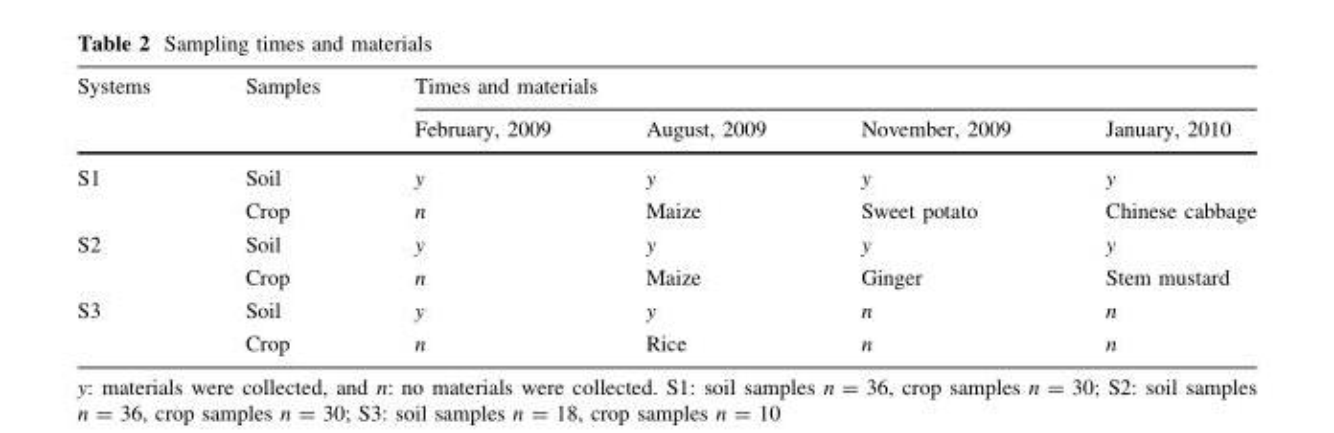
<table><thead><tr><td rowspan="2">Systems</td><td rowspan="2">Samples</td><td colspan="4">Times and materials</td></tr><tr><td>February, 2009</td><td>August, 2009</td><td>November, 2009</td><td>January, 2010</td></tr></thead><tbody><tr><td rowspan="2">S1</td><td>Soil</td><td>y</td><td>y</td><td>y</td><td>y</td></tr><tr><td>Crop</td><td>n</td><td>Maize</td><td>Sweet potato</td><td>Chinese cabbage</td></tr><tr><td rowspan="2">S2</td><td>Soil</td><td>y</td><td>y</td><td>y</td><td>y</td></tr><tr><td>Crop</td><td>n</td><td>Maize</td><td>Ginger</td><td>Stem mustard</td></tr><tr><td rowspan="2">S3</td><td>Soil</td><td>y</td><td>y</td><td>n</td><td>n</td></tr><tr><td>Crop</td><td>n</td><td>Rice</td><td>n</td><td>n</td></tr></tbody></table>